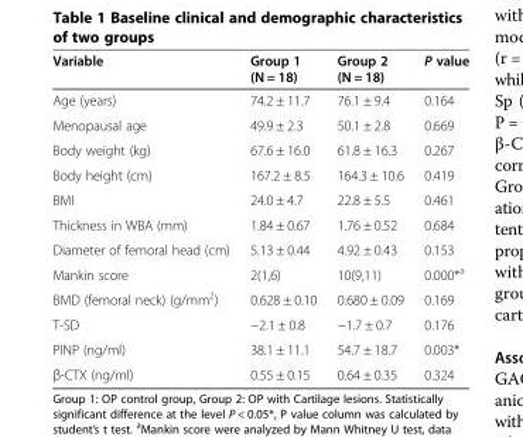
<table><thead><tr><td>Variable</td><td>Group 1 (N = 18)</td><td>Group 2 (N = 18)</td><td>P value</td></tr></thead><tbody><tr><td>Age (years)</td><td>74.2 ± 11.7</td><td>76.1 ± 9.4</td><td>0.164</td></tr><tr><td>Menopausal age</td><td>49.9 ± 2.3</td><td>50.1 ± 2.8</td><td>0.669</td></tr><tr><td>Body weight (kg)</td><td>67.6 ± 16.0</td><td>61.8 ± 16.3</td><td>0.267</td></tr><tr><td>Body height (cm)</td><td>167.2 ± 8.5</td><td>164.3 ± 10.6</td><td>0.419</td></tr><tr><td>BMI</td><td>24.0 ± 4.7</td><td>22.8 ± 5.5</td><td>0.461</td></tr><tr><td>Thickness in WBA (mm)</td><td>1.84 ± 0.67</td><td>1.76 ± 0.52</td><td>0.684</td></tr><tr><td>Diameter of femoral head (cm)</td><td>5.13 ± 0.44</td><td>4.92 ± 0.43</td><td>0.153</td></tr><tr><td>Mankin score</td><td>2(1,6)</td><td>10(9,11)</td><td>0.000*<sup>a</sup></td></tr><tr><td>BMD (femoral neck) (g/mm<sup>2</sup>)</td><td>0.628 ± 0.10</td><td>0.680 ± 0.09</td><td>0.169</td></tr><tr><td>T-SD</td><td>−2.1 ± 0.8</td><td>−1.7 ± 0.7</td><td>0.176</td></tr><tr><td>PINP (ng/ml)</td><td>38.1 ± 11.1</td><td>54.7 ± 18.7</td><td>0.003*</td></tr><tr><td>β-CTX (ng/ml)</td><td>0.55 ± 0.15</td><td>0.64 ± 0.35</td><td>0.324</td></tr></tbody></table>